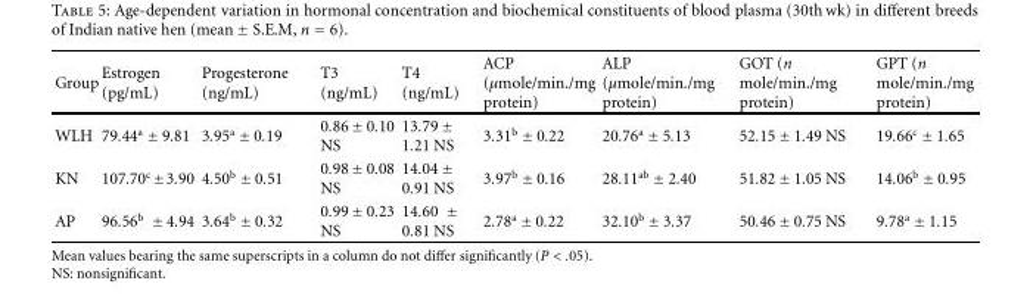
<table><thead><tr><td>Group</td><td>Estrogen (pg/mL)</td><td>Progesterone (ng/mL)</td><td>T3 (ng/mL)</td><td>T4 (ng/mL)</td><td>ACP (µmole/min./mg protein)</td><td>ALP (µmole/min./mg protein)</td><td>GOT (n mole/min./mg protein)</td><td>GPT (n mole/min./mg protein)</td></tr></thead><tbody><tr><td>WLH</td><td>79.44<sup>a</sup> ± 9.81</td><td>3.95<sup>a</sup> ± 0.19</td><td>0.86 ± 0.10 NS</td><td>13.79 ± 1.21 NS</td><td>3.31<sup>b</sup> ± 0.22</td><td>20.76<sup>a</sup> ± 5.13</td><td>52.15 ± 1.49 NS</td><td>19.66<sup>c</sup> ± 1.65</td></tr><tr><td>KN</td><td>107.70<sup>c</sup> ±3.90</td><td>4.50<sup>b</sup> ± 0.51</td><td>0.98 ± 0.08 NS</td><td>14.04 ± 0.91 NS</td><td>3.97<sup>b</sup> ± 0.16</td><td>28.11<sup>ab</sup> ± 2.40</td><td>51.82 ± 1.05 NS</td><td>14.06<sup>b</sup> ± 0.95</td></tr><tr><td>AP</td><td>96.56<sup>b</sup> ± 4.94</td><td>3.64<sup>b</sup> ± 0.32</td><td>0.99 ± 0.23 NS</td><td>14.60 ± 0.81 NS</td><td>2.78<sup>a</sup> ± 0.22</td><td>32.10<sup>b</sup> ± 3.37</td><td>50.46 ± 0.75 NS</td><td>9.78<sup>a</sup> ± 1.15</td></tr></tbody></table>